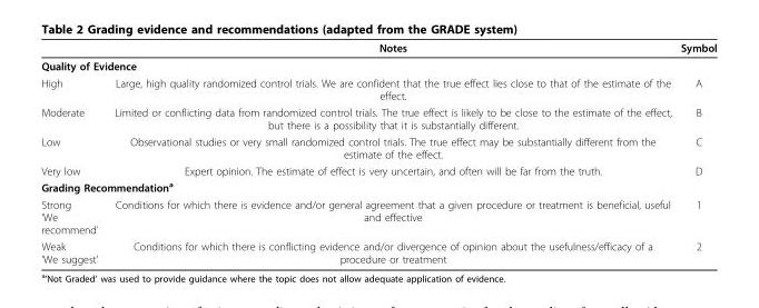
<table><thead><tr><td></td><td>Notes</td><td>Symbol</td></tr></thead><tbody><tr><td colspan="3">Quality of Evidence</td></tr><tr><td>High</td><td>Large, high quality randomized control trials. We are confident that the true effect lies close to that of the estimate of the effect.</td><td>A</td></tr><tr><td>Moderate</td><td>Limited or conflicting data from randomized control trials. The true effect is likely to be close to the estimate of the effect, but there is a possibility that it is substantially different.</td><td>B</td></tr><tr><td>Low</td><td>Observational studies or very small randomized control trials. The true effect may be substantially different from the estimate of the effect.</td><td>C</td></tr><tr><td>Very low</td><td>Expert opinion. The estimate of effect is very uncertain, and often will be far from the truth.</td><td>D</td></tr><tr><td colspan="3">Grading Recommendation<sup>a</sup></td></tr><tr><td>Strong ’We recommend’</td><td>Conditions for which there is evidence and/or general agreement that a given procedure or treatment is beneficial, useful and effective</td><td>1</td></tr><tr><td>Weak ’We suggest’</td><td>Conditions for which there is conflicting evidence and/or divergence of opinion about the usefulness/efficacy of a procedure or treatment</td><td>2</td></tr></tbody></table>